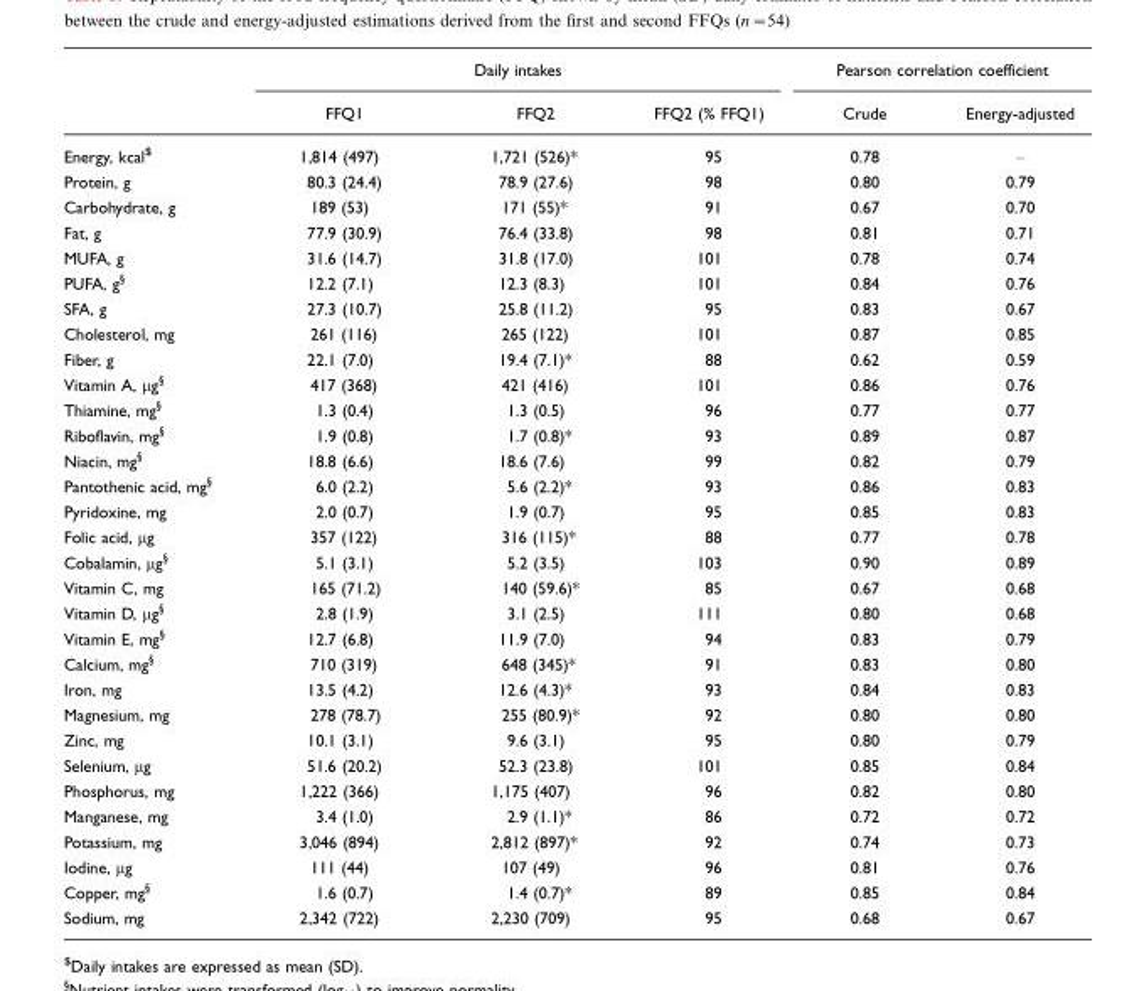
<table><thead><tr><td rowspan="2"></td><td colspan="3">Daily intakes</td><td colspan="2">Pearson correlation coefficient</td></tr><tr><td>FFQ1</td><td>FFQ2</td><td>FFQ2 (% FFQ1)</td><td>Crude</td><td>Energy-adjusted</td></tr></thead><tbody><tr><td>Energy, kcal$</td><td>1,814 (497)</td><td>1,721 (526)*</td><td>95</td><td>0.78</td><td>–</td></tr><tr><td>Protein, g</td><td>80.3 (24.4)</td><td>78.9 (27.6)</td><td>98</td><td>0.80</td><td>0.79</td></tr><tr><td>Carbohydrate, g</td><td>189 (53)</td><td>171 (55)*</td><td>91</td><td>0.67</td><td>0.70</td></tr><tr><td>Fat, g</td><td>77.9 (30.9)</td><td>76.4 (33.8)</td><td>98</td><td>0.81</td><td>0.71</td></tr><tr><td>MUFA, g</td><td>31.6 (14.7)</td><td>31.8 (17.0)</td><td>101</td><td>0.78</td><td>0.74</td></tr><tr><td>PUFA, g§</td><td>12.2 (7.1)</td><td>12.3 (8.3)</td><td>101</td><td>0.84</td><td>0.76</td></tr><tr><td>SFA, g</td><td>27.3 (10.7)</td><td>25.8 (11.2)</td><td>95</td><td>0.83</td><td>0.67</td></tr><tr><td>Cholesterol, mg</td><td>261 (116)</td><td>265 (122)</td><td>101</td><td>0.87</td><td>0.85</td></tr><tr><td>Fiber, g</td><td>22.1 (7.0)</td><td>19.4 (7.1)*</td><td>88</td><td>0.62</td><td>0.59</td></tr><tr><td>Vitamin A, µg§</td><td>417 (368)</td><td>421 (416)</td><td>101</td><td>0.86</td><td>0.76</td></tr><tr><td>Thiamine, mg§</td><td>1.3 (0.4)</td><td>1.3 (0.5)</td><td>96</td><td>0.77</td><td>0.77</td></tr><tr><td>Riboflavin, mg§</td><td>1.9 (0.8)</td><td>1.7 (0.8)*</td><td>93</td><td>0.89</td><td>0.87</td></tr><tr><td>Niacin, mg§</td><td>18.8 (6.6)</td><td>18.6 (7.6)</td><td>99</td><td>0.82</td><td>0.79</td></tr><tr><td>Pantothenic acid, mg§</td><td>6.0 (2.2)</td><td>5.6 (2.2)*</td><td>93</td><td>0.86</td><td>0.83</td></tr><tr><td>Pyridoxine, mg</td><td>2.0 (0.7)</td><td>1.9 (0.7)</td><td>95</td><td>0.85</td><td>0.83</td></tr><tr><td>Folic acid, µg</td><td>357 (122)</td><td>316 (115)*</td><td>88</td><td>0.77</td><td>0.78</td></tr><tr><td>Cobalamin, µg§</td><td>5.1 (3.1)</td><td>5.2 (3.5)</td><td>103</td><td>0.90</td><td>0.89</td></tr><tr><td>Vitamin C, mg</td><td>165 (71.2)</td><td>140 (59.6)*</td><td>85</td><td>0.67</td><td>0.68</td></tr><tr><td>Vitamin D, µg§</td><td>2.8 (1.9)</td><td>3.1 (2.5)</td><td>111</td><td>0.80</td><td>0.68</td></tr><tr><td>Vitamin E, mg§</td><td>12.7 (6.8)</td><td>11.9 (7.0)</td><td>94</td><td>0.83</td><td>0.79</td></tr><tr><td>Calcium, mg§</td><td>710 (319)</td><td>648 (345)*</td><td>91</td><td>0.83</td><td>0.80</td></tr><tr><td>Iron, mg</td><td>13.5 (4.2)</td><td>12.6 (4.3)*</td><td>93</td><td>0.84</td><td>0.83</td></tr><tr><td>Magnesium, mg</td><td>278 (78.7)</td><td>255 (80.9)*</td><td>92</td><td>0.80</td><td>0.80</td></tr><tr><td>Zinc, mg</td><td>10.1 (3.1)</td><td>9.6 (3.1)</td><td>95</td><td>0.80</td><td>0.79</td></tr><tr><td>Selenium, µg</td><td>51.6 (20.2)</td><td>52.3 (23.8)</td><td>101</td><td>0.85</td><td>0.84</td></tr><tr><td>Phosphorus, mg</td><td>1,222 (366)</td><td>1,175 (407)</td><td>96</td><td>0.82</td><td>0.80</td></tr><tr><td>Manganese, mg</td><td>3.4 (1.0)</td><td>2.9 (1.1)*</td><td>86</td><td>0.72</td><td>0.72</td></tr><tr><td>Potassium, mg</td><td>3,046 (894)</td><td>2,812 (897)*</td><td>92</td><td>0.74</td><td>0.73</td></tr><tr><td>Iodine, µg</td><td>111 (44)</td><td>107 (49)</td><td>96</td><td>0.81</td><td>0.76</td></tr><tr><td>Copper, mg§</td><td>1.6 (0.7)</td><td>1.4 (0.7)*</td><td>89</td><td>0.85</td><td>0.84</td></tr><tr><td>Sodium, mg</td><td>2,342 (722)</td><td>2,230 (709)</td><td>95</td><td>0.68</td><td>0.67</td></tr></tbody></table>